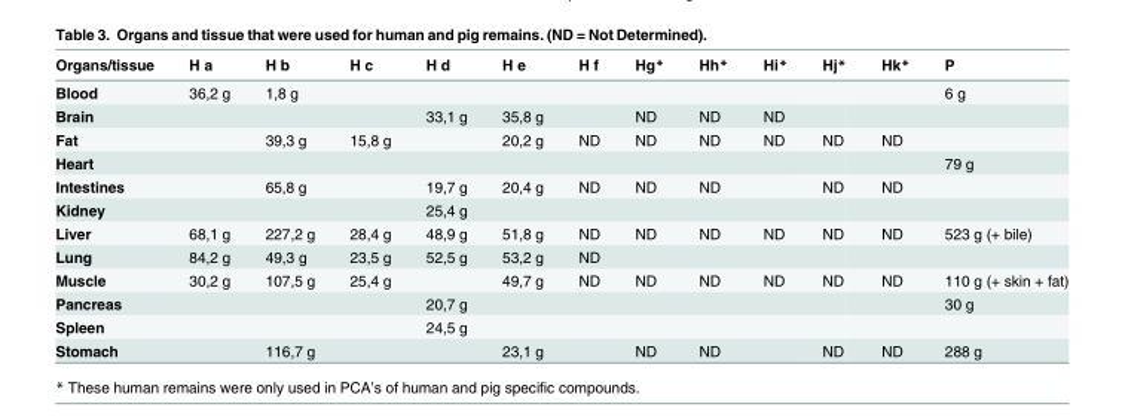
<table><thead><tr><td>Organs/tissue</td><td>H a</td><td>H b</td><td>H c</td><td>H d</td><td>H e</td><td>H f</td><td>Hg*</td><td>Hh*</td><td>Hi*</td><td>Hj*</td><td>Hk*</td><td>P</td></tr></thead><tbody><tr><td>Blood</td><td>36,2 g</td><td>1,8 g</td><td></td><td></td><td></td><td></td><td></td><td></td><td></td><td></td><td></td><td>6 g</td></tr><tr><td>Brain</td><td></td><td></td><td></td><td>33,1 g</td><td>35,8 g</td><td></td><td>ND</td><td>ND</td><td>ND</td><td></td><td></td><td></td></tr><tr><td>Fat</td><td></td><td>39,3 g</td><td>15,8 g</td><td></td><td>20,2 g</td><td>ND</td><td>ND</td><td>ND</td><td>ND</td><td>ND</td><td>ND</td><td></td></tr><tr><td>Heart</td><td></td><td></td><td></td><td></td><td></td><td></td><td></td><td></td><td></td><td></td><td></td><td>79 g</td></tr><tr><td>Intestines</td><td></td><td>65,8 g</td><td></td><td>19,7 g</td><td>20,4 g</td><td>ND</td><td>ND</td><td>ND</td><td></td><td>ND</td><td>ND</td><td></td></tr><tr><td>Kidney</td><td></td><td></td><td></td><td>25,4 g</td><td></td><td></td><td></td><td></td><td></td><td></td><td></td><td></td></tr><tr><td>Liver</td><td>68,1 g</td><td>227,2 g</td><td>28,4 g</td><td>48,9 g</td><td>51,8 g</td><td>ND</td><td>ND</td><td>ND</td><td>ND</td><td>ND</td><td>ND</td><td>523 g (+ bile)</td></tr><tr><td>Lung</td><td>84,2 g</td><td>49,3 g</td><td>23,5 g</td><td>52,5 g</td><td>53,2 g</td><td>ND</td><td></td><td></td><td></td><td></td><td></td><td></td></tr><tr><td>Muscle</td><td>30,2 g</td><td>107,5 g</td><td>25,4 g</td><td></td><td>49,7 g</td><td>ND</td><td>ND</td><td>ND</td><td>ND</td><td>ND</td><td>ND</td><td>110 g (+ skin + fat)</td></tr><tr><td>Pancreas</td><td></td><td></td><td></td><td>20,7 g</td><td></td><td></td><td></td><td></td><td></td><td></td><td></td><td>30 g</td></tr><tr><td>Spleen</td><td></td><td></td><td></td><td>24,5 g</td><td></td><td></td><td></td><td></td><td></td><td></td><td></td><td></td></tr><tr><td>Stomach</td><td></td><td>116,7 g</td><td></td><td></td><td>23,1 g</td><td></td><td>ND</td><td>ND</td><td></td><td>ND</td><td>ND</td><td>288 g</td></tr></tbody></table>